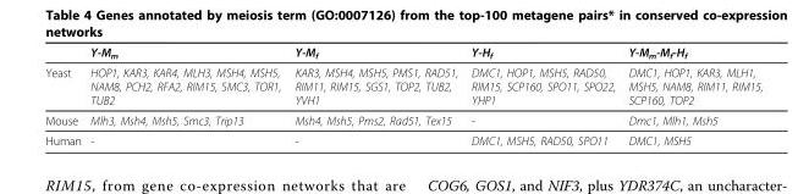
<table><thead><tr><td></td><td>Y-M<sub>m</sub></td><td>Y-M<sub>f</sub></td><td>Y-H<sub>f</sub></td><td>Y-M<sub>m</sub>-M<sub>f</sub>-H<sub>f</sub></td></tr></thead><tbody><tr><td>Yeast</td><td>HOP1, KAR3, KAR4, MLH3, MSH4, MSH5, NAM8, PCH2, RFA2, RIM15, SMC3, TOR1, TUB2</td><td>KAR3, MSH4, MSH5, PMS1, RAD51, RIM11, RIM15, SGS1, TOP2, TUB2, YVH1</td><td>DMC1, HOP1, MSH5, RAD50, RIM15, SCP160, SPO11, SPO22, YHP1</td><td>DMC1, HOP1, KAR3, MLH1, MSH5, NAM8, RIM11, RIM15, SCP160, TOP2</td></tr><tr><td>Mouse</td><td>Mlh3, Msh4, Msh5, Smc3, Trip13</td><td>Msh4, Msh5, Pms2, Rad51, Tex15</td><td>-</td><td>Dmc1, Mlh1, Msh5</td></tr><tr><td>Human</td><td>-</td><td>-</td><td>DMC1, MSH5, RAD50, SPO11</td><td>DMC1, MSH5</td></tr></tbody></table>